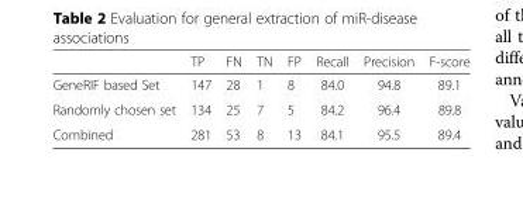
<table><thead><tr><td></td><td>TP</td><td>FN</td><td>TN</td><td>FP</td><td>Recall</td><td>Precision</td><td>F-score</td></tr></thead><tbody><tr><td>GeneRIF based Set</td><td>147</td><td>28</td><td>1</td><td>8</td><td>84.0</td><td>94.8</td><td>89.1</td></tr><tr><td>Randomly chosen set</td><td>134</td><td>25</td><td>7</td><td>5</td><td>84.2</td><td>96.4</td><td>89.8</td></tr><tr><td>Combined</td><td>281</td><td>53</td><td>8</td><td>13</td><td>84.1</td><td>95.5</td><td>89.4</td></tr></tbody></table>